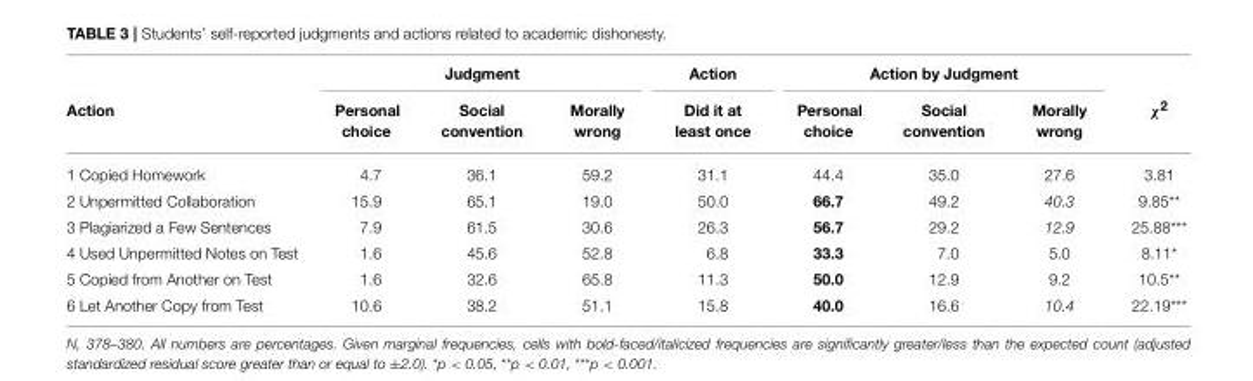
<table><thead><tr><td rowspan="2">Action</td><td colspan="3">Judgment</td><td rowspan="2">Action Did it at least once</td><td colspan="3">Action by Judgment</td><td rowspan="2">χ<sup>2</sup></td></tr><tr><td>Personal choice</td><td>Social convention</td><td>Morally wrong</td><td>Personal choice</td><td>Social convention</td><td>Morally wrong</td></tr></thead><tbody><tr><td>1 Copied Homework</td><td>4.7</td><td>36.1</td><td>59.2</td><td>31.1</td><td>44.4</td><td>35.0</td><td>27.6</td><td>3.81</td></tr><tr><td>2 Unpermitted Collaboration</td><td>15.9</td><td>65.1</td><td>19.0</td><td>50.0</td><td>66.7</td><td>49.2</td><td>40.3</td><td>9.85**</td></tr><tr><td>3 Plagiarized a Few Sentences</td><td>7.9</td><td>61.5</td><td>30.6</td><td>26.3</td><td>56.7</td><td>29.2</td><td>12.9</td><td>25.88***</td></tr><tr><td>4 Used Unpermitted Notes on Test</td><td>1.6</td><td>45.6</td><td>52.8</td><td>6.8</td><td>33.3</td><td>7.0</td><td>5.0</td><td>8.11*</td></tr><tr><td>5 Copied from Another on Test</td><td>1.6</td><td>32.6</td><td>65.8</td><td>11.3</td><td>50.0</td><td>12.9</td><td>9.2</td><td>10.5**</td></tr><tr><td>6 Let Another Copy from Test</td><td>10.6</td><td>38.2</td><td>51.1</td><td>15.8</td><td>40.0</td><td>16.6</td><td>10.4</td><td>22.19***</td></tr></tbody></table>